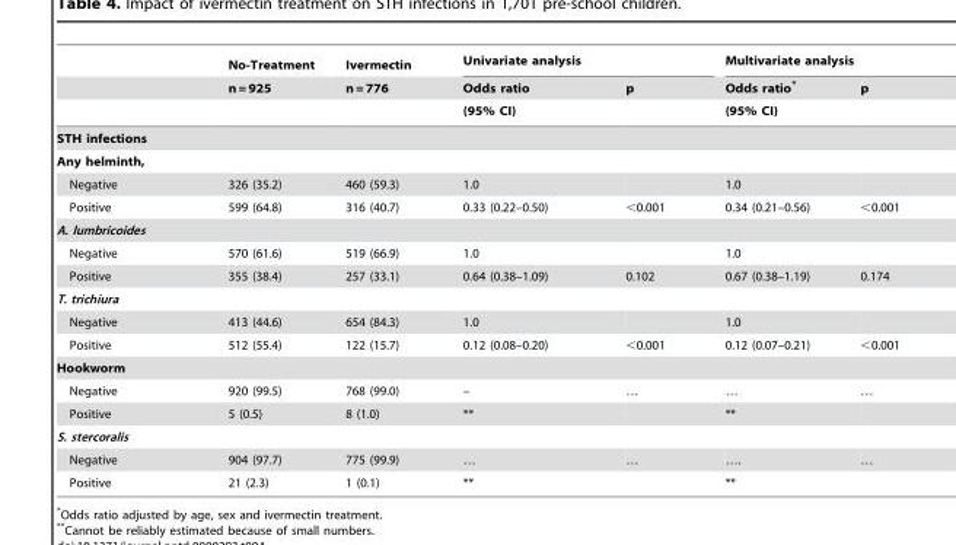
<table><thead><tr><td rowspan="3"></td><td rowspan="3">No-Treatment n = 925</td><td rowspan="3">Ivermectin n = 776</td><td colspan="2">Univariate analysis</td><td colspan="2">Multivariate analysis</td></tr><tr><td rowspan="2">Odds ratio (95% CI)</td><td rowspan="2">p</td><td rowspan="2">Odds ratio* (95% CI)</td><td rowspan="2">p</td></tr><tr></tr></thead><tbody><tr><td colspan="7">STH infections</td></tr><tr><td colspan="7">Any helminth,</td></tr><tr><td>Negative</td><td>326 (35.2)</td><td>460 (59.3)</td><td>1.0</td><td></td><td>1.0</td><td></td></tr><tr><td>Positive</td><td>599 (64.8)</td><td>316 (40.7)</td><td>0.33 (0.22–0.50)</td><td>&lt;0.001</td><td>0.34 (0.21–0.56)</td><td>&lt;0.001</td></tr><tr><td colspan="7">A. lumbricoides</td></tr><tr><td>Negative</td><td>570 (61.6)</td><td>519 (66.9)</td><td>1.0</td><td></td><td>1.0</td><td></td></tr><tr><td>Positive</td><td>355 (38.4)</td><td>257 (33.1)</td><td>0.64 (0.38–1.09)</td><td>0.102</td><td>0.67 (0.38–1.19)</td><td>0.174</td></tr><tr><td colspan="7">T. trichiura</td></tr><tr><td>Negative</td><td>413 (44.6)</td><td>654 (84.3)</td><td>1.0</td><td></td><td>1.0</td><td></td></tr><tr><td>Positive</td><td>512 (55.4)</td><td>122 (15.7)</td><td>0.12 (0.08–0.20)</td><td>&lt;0.001</td><td>0.12 (0.07–0.21)</td><td>&lt;0.001</td></tr><tr><td colspan="7">Hookworm</td></tr><tr><td>Negative</td><td>920 (99.5)</td><td>768 (99.0)</td><td>–</td><td>…</td><td>…</td><td>…</td></tr><tr><td>Positive</td><td>5 (0.5)</td><td>8 (1.0)</td><td>**</td><td></td><td>**</td><td></td></tr><tr><td colspan="7">S. stercoralis</td></tr><tr><td>Negative</td><td>904 (97.7)</td><td>775 (99.9)</td><td>…</td><td>…</td><td>….</td><td>…</td></tr><tr><td>Positive</td><td>21 (2.3)</td><td>1 (0.1)</td><td>**</td><td></td><td>**</td><td></td></tr></tbody></table>